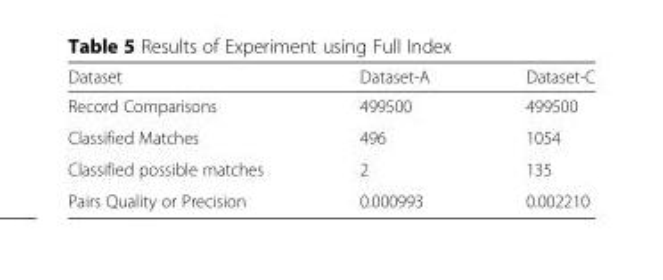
<table><thead><tr><td>Dataset</td><td>Dataset-A</td><td>Dataset-C</td></tr></thead><tbody><tr><td>Record Comparisons</td><td>499500</td><td>499500</td></tr><tr><td>Classified Matches</td><td>496</td><td>1054</td></tr><tr><td>Classified possible matches</td><td>2</td><td>135</td></tr><tr><td>Pairs Quality or Precision</td><td>0.000993</td><td>0.002210</td></tr></tbody></table>